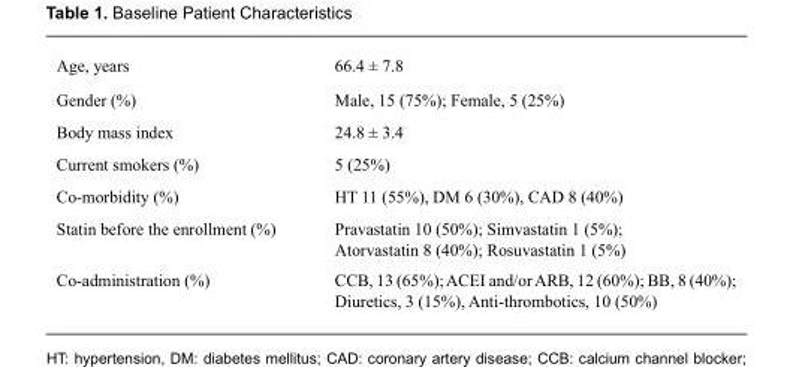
<table><tbody><tr><td>Age, years</td><td>66.4 ± 7.8</td></tr><tr><td>Gender (%)</td><td>Male, 15 (75%); Female, 5 (25%)</td></tr><tr><td>Body mass index</td><td>24.8 ± 3.4</td></tr><tr><td>Current smokers (%)</td><td>5 (25%)</td></tr><tr><td>Co-morbidity (%)</td><td>HT 11 (55%), DM 6 (30%), CAD 8 (40%)</td></tr><tr><td>Statin before the enrollment (%)</td><td>Pravastatin 10 (50%); Simvastatin 1 (5%); Atorvastatin 8 (40%); Rosuvastatin 1 (5%)</td></tr><tr><td>Co-administration (%)</td><td>CCB, 13 (65%); ACEI and/or ARB, 12 (60%); BB, 8 (40%); Diuretics, 3 (15%), Anti-thrombotics, 10 (50%)</td></tr></tbody></table>